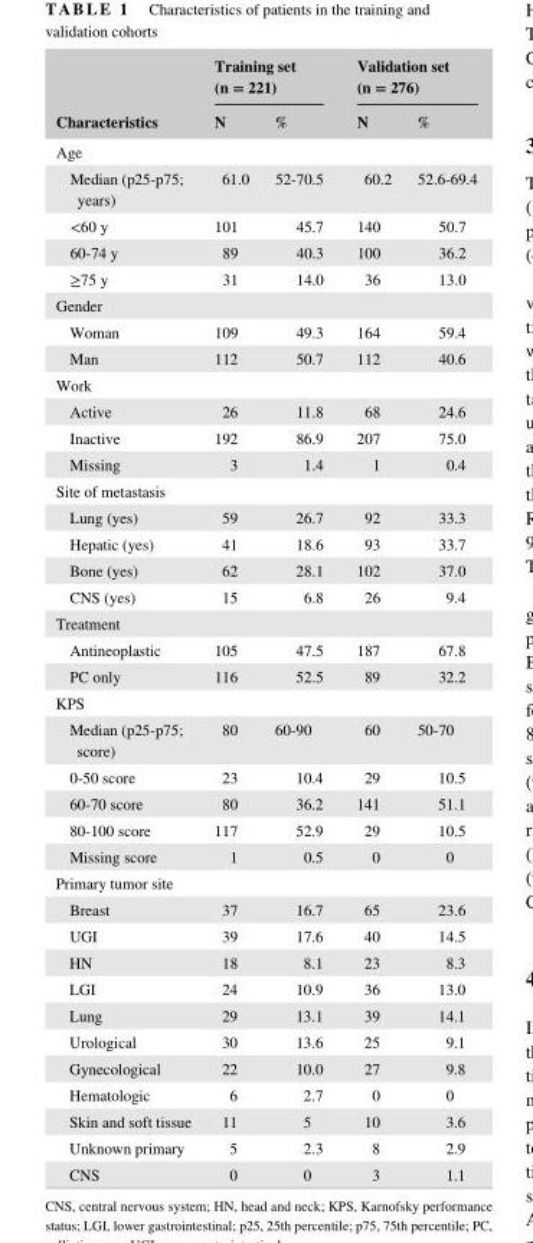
<table><thead><tr><td rowspan="2">Characteristics</td><td colspan="2">Training set (n = 221)</td><td colspan="2">Validation set (n = 276)</td></tr><tr><td>N</td><td>%</td><td>N</td><td>%</td></tr></thead><tbody><tr><td colspan="5">Age</td></tr><tr><td>Median (p25- p75; years)</td><td>61.0</td><td>52- 70.5</td><td>60.2</td><td>52.6- 69.4</td></tr><tr><td>&lt;60 y</td><td>101</td><td>45.7</td><td>140</td><td>50.7</td></tr><tr><td>60- 74 y</td><td>89</td><td>40.3</td><td>100</td><td>36.2</td></tr><tr><td>≥75 y</td><td>31</td><td>14.0</td><td>36</td><td>13.0</td></tr><tr><td colspan="5">Gender</td></tr><tr><td>Woman</td><td>109</td><td>49.3</td><td>164</td><td>59.4</td></tr><tr><td>Man</td><td>112</td><td>50.7</td><td>112</td><td>40.6</td></tr><tr><td colspan="5">Work</td></tr><tr><td>Active</td><td>26</td><td>11.8</td><td>68</td><td>24.6</td></tr><tr><td>Inactive</td><td>192</td><td>86.9</td><td>207</td><td>75.0</td></tr><tr><td>Missing</td><td>3</td><td>1.4</td><td>1</td><td>0.4</td></tr><tr><td colspan="5">Site of metastasis</td></tr><tr><td>Lung (yes)</td><td>59</td><td>26.7</td><td>92</td><td>33.3</td></tr><tr><td>Hepatic (yes)</td><td>41</td><td>18.6</td><td>93</td><td>33.7</td></tr><tr><td>Bone (yes)</td><td>62</td><td>28.1</td><td>102</td><td>37.0</td></tr><tr><td>CNS (yes)</td><td>15</td><td>6.8</td><td>26</td><td>9.4</td></tr><tr><td colspan="5">Treatment</td></tr><tr><td>Antineoplastic</td><td>105</td><td>47.5</td><td>187</td><td>67.8</td></tr><tr><td>PC only</td><td>116</td><td>52.5</td><td>89</td><td>32.2</td></tr><tr><td colspan="5">KPS</td></tr><tr><td>Median (p25- p75; score)</td><td>80</td><td>60- 90</td><td>60</td><td>50- 70</td></tr><tr><td>0- 50 score</td><td>23</td><td>10.4</td><td>29</td><td>10.5</td></tr><tr><td>60- 70 score</td><td>80</td><td>36.2</td><td>141</td><td>51.1</td></tr><tr><td>80- 100 score</td><td>117</td><td>52.9</td><td>29</td><td>10.5</td></tr><tr><td>Missing score</td><td>1</td><td>0.5</td><td>0</td><td>0</td></tr><tr><td colspan="5">Primary tumor site</td></tr><tr><td>Breast</td><td>37</td><td>16.7</td><td>65</td><td>23.6</td></tr><tr><td>UGI</td><td>39</td><td>17.6</td><td>40</td><td>14.5</td></tr><tr><td>HN</td><td>18</td><td>8.1</td><td>23</td><td>8.3</td></tr><tr><td>LGI</td><td>24</td><td>10.9</td><td>36</td><td>13.0</td></tr><tr><td>Lung</td><td>29</td><td>13.1</td><td>39</td><td>14.1</td></tr><tr><td>Urological</td><td>30</td><td>13.6</td><td>25</td><td>9.1</td></tr><tr><td>Gynecological</td><td>22</td><td>10.0</td><td>27</td><td>9.8</td></tr><tr><td>Hematologic</td><td>6</td><td>2.7</td><td>0</td><td>0</td></tr><tr><td>Skin and soft tissue</td><td>11</td><td>5</td><td>10</td><td>3.6</td></tr><tr><td>Unknown primary</td><td>5</td><td>2.3</td><td>8</td><td>2.9</td></tr><tr><td>CNS</td><td>0</td><td>0</td><td>3</td><td>1.1</td></tr></tbody></table>